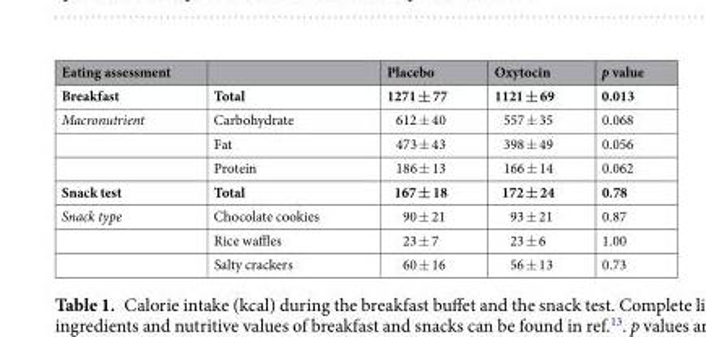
<table><thead><tr><td>Eating assessment</td><td></td><td>Placebo</td><td>Oxytocin</td><td>p value</td></tr></thead><tbody><tr><td>Breakfast</td><td>Total</td><td>1271 ± 77</td><td>1121 ± 69</td><td>0.013</td></tr><tr><td rowspan="3">Macronutrient</td><td>Carbohydrate</td><td>612 ± 40</td><td>557 ± 35</td><td>0.068</td></tr><tr><td>Fat</td><td>473 ± 43</td><td>398 ± 49</td><td>0.056</td></tr><tr><td>Protein</td><td>186 ± 13</td><td>166 ± 14</td><td>0.062</td></tr><tr><td>Snack test</td><td>Total</td><td>167 ± 18</td><td>172 ± 24</td><td>0.78</td></tr><tr><td rowspan="3">Snack type</td><td>Chocolate cookies</td><td>90 ± 21</td><td>93 ± 21</td><td>0.87</td></tr><tr><td>Rice waffles</td><td>23 ± 7</td><td>23 ± 6</td><td>1.00</td></tr><tr><td>Salty crackers</td><td>60 ± 16</td><td>56 ± 13</td><td>0.73</td></tr></tbody></table>